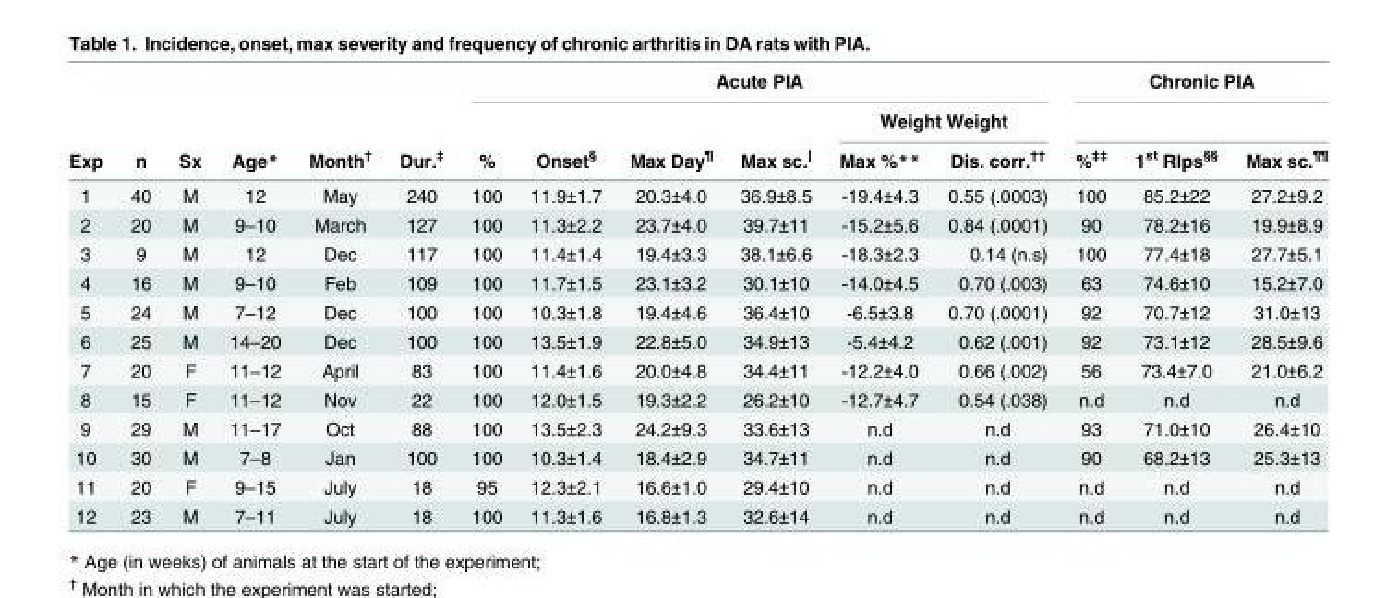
<table><thead><tr><td rowspan="3">Exp</td><td rowspan="3">n</td><td rowspan="3">Sx</td><td rowspan="3">Age*</td><td rowspan="3">Month<sup>†</sup></td><td rowspan="3">Dur.<sup>‡</sup></td><td colspan="6">Acute PIA</td><td colspan="3">Chronic PIA</td></tr><tr><td rowspan="2">%</td><td rowspan="2">Onset<sup>§</sup></td><td rowspan="2">Max Day<sup>¶</sup></td><td rowspan="2">Max sc.<sup>|</sup></td><td colspan="2">Weight Weight</td><td rowspan="2">%<sup>‡‡</sup></td><td rowspan="2">1<sup>st</sup> Rlps<sup>§§</sup></td><td rowspan="2">Max sc.<sup>¶¶</sup></td></tr><tr><td>Max %**</td><td>Dis. corr.<sup>††</sup></td></tr></thead><tbody><tr><td>1</td><td>40</td><td>M</td><td>12</td><td>May</td><td>240</td><td>100</td><td>11.9±1.7</td><td>20.3±4.0</td><td>36.9±8.5</td><td>-19.4±4.3</td><td>0.55 (.0003)</td><td>100</td><td>85.2±22</td><td>27.2±9.2</td></tr><tr><td>2</td><td>20</td><td>M</td><td>9–10</td><td>March</td><td>127</td><td>100</td><td>11.3±2.2</td><td>23.7±4.0</td><td>39.7±11</td><td>-15.2±5.6</td><td>0.84 (.0001)</td><td>90</td><td>78.2±16</td><td>19.9±8.9</td></tr><tr><td>3</td><td>9</td><td>M</td><td>12</td><td>Dec</td><td>117</td><td>100</td><td>11.4±1.4</td><td>19.4±3.3</td><td>38.1±6.6</td><td>-18.3±2.3</td><td>0.14 (n.s)</td><td>100</td><td>77.4±18</td><td>27.7±5.1</td></tr><tr><td>4</td><td>16</td><td>M</td><td>9–10</td><td>Feb</td><td>109</td><td>100</td><td>11.7±1.5</td><td>23.1±3.2</td><td>30.1±10</td><td>-14.0±4.5</td><td>0.70 (.003)</td><td>63</td><td>74.6±10</td><td>15.2±7.0</td></tr><tr><td>5</td><td>24</td><td>M</td><td>7–12</td><td>Dec</td><td>100</td><td>100</td><td>10.3±1.8</td><td>19.4±4.6</td><td>36.4±10</td><td>-6.5±3.8</td><td>0.70 (.0001)</td><td>92</td><td>70.7±12</td><td>31.0±13</td></tr><tr><td>6</td><td>25</td><td>M</td><td>14–20</td><td>Dec</td><td>100</td><td>100</td><td>13.5±1.9</td><td>22.8±5.0</td><td>34.9±13</td><td>-5.4±4.2</td><td>0.62 (.001)</td><td>92</td><td>73.1±12</td><td>28.5±9.6</td></tr><tr><td>7</td><td>20</td><td>F</td><td>11–12</td><td>April</td><td>83</td><td>100</td><td>11.4±1.6</td><td>20.0±4.8</td><td>34.4±11</td><td>-12.2±4.0</td><td>0.66 (.002)</td><td>56</td><td>73.4±7.0</td><td>21.0±6.2</td></tr><tr><td>8</td><td>15</td><td>F</td><td>11–12</td><td>Nov</td><td>22</td><td>100</td><td>12.0±1.5</td><td>19.3±2.2</td><td>26.2±10</td><td>-12.7±4.7</td><td>0.54 (.038)</td><td>n.d</td><td>n.d</td><td>n.d</td></tr><tr><td>9</td><td>29</td><td>M</td><td>11–17</td><td>Oct</td><td>88</td><td>100</td><td>13.5±2.3</td><td>24.2±9.3</td><td>33.6±13</td><td>n.d</td><td>n.d</td><td>93</td><td>71.0±10</td><td>26.4±10</td></tr><tr><td>10</td><td>30</td><td>M</td><td>7–8</td><td>Jan</td><td>100</td><td>100</td><td>10.3±1.4</td><td>18.4±2.9</td><td>34.7±11</td><td>n.d</td><td>n.d</td><td>90</td><td>68.2±13</td><td>25.3±13</td></tr><tr><td>11</td><td>20</td><td>F</td><td>9–15</td><td>July</td><td>18</td><td>95</td><td>12.3±2.1</td><td>16.6±1.0</td><td>29.4±10</td><td>n.d</td><td>n.d</td><td>n.d</td><td>n.d</td><td>n.d</td></tr><tr><td>12</td><td>23</td><td>M</td><td>7–11</td><td>July</td><td>18</td><td>100</td><td>11.3±1.6</td><td>16.8±1.3</td><td>32.6±14</td><td>n.d</td><td>n.d</td><td>n.d</td><td>n.d</td><td>n.d</td></tr></tbody></table>